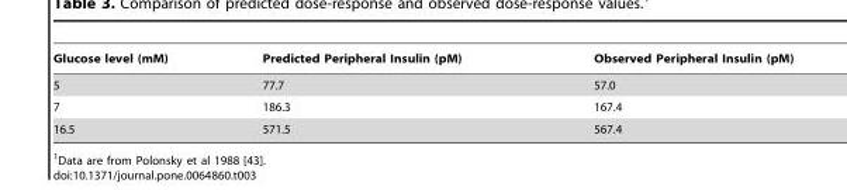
<table><thead><tr><td>Glucose level (mM)</td><td>Predicted Peripheral Insulin (pM)</td><td>Observed Peripheral Insulin (pM)</td></tr></thead><tbody><tr><td>5</td><td>77.7</td><td>57.0</td></tr><tr><td>7</td><td>186.3</td><td>167.4</td></tr><tr><td>16.5</td><td>571.5</td><td>567.4</td></tr></tbody></table>